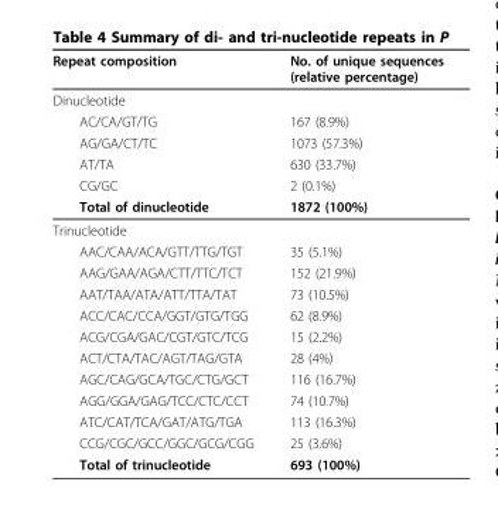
<table><thead><tr><td>Repeat composition</td><td>No. of unique sequences (relative percentage)</td></tr></thead><tbody><tr><td colspan="2">Dinucleotide</td></tr><tr><td>AC/CA/GT/TG</td><td>167 (8.9%)</td></tr><tr><td>AG/GA/CT/TC</td><td>1073 (57.3%)</td></tr><tr><td>AT/TA</td><td>630 (33.7%)</td></tr><tr><td>CG/GC</td><td>2 (0.1%)</td></tr><tr><td>Total of dinucleotide</td><td>1872 (100%)</td></tr><tr><td colspan="2">Trinucleotide</td></tr><tr><td>AAC/CAA/ACA/GTT/TTG/TGT</td><td>35 (5.1%)</td></tr><tr><td>AAG/GAA/AGA/CTT/TTC/TCT</td><td>152 (21.9%)</td></tr><tr><td>AAT/TAA/ATA/ATT/TTA/TAT</td><td>73 (10.5%)</td></tr><tr><td>ACC/CAC/CCA/GGT/GTG/TGG</td><td>62 (8.9%)</td></tr><tr><td>ACG/CGA/GAC/CGT/GTC/TCG</td><td>15 (2.2%)</td></tr><tr><td>ACT/CTA/TAC/AGT/TAG/GTA</td><td>28 (4%)</td></tr><tr><td>AGC/CAG/GCA/TGC/CTG/GCT</td><td>116 (16.7%)</td></tr><tr><td>AGG/GGA/GAG/TCC/CTC/CCT</td><td>74 (10.7%)</td></tr><tr><td>ATC/CAT/TCA/GAT/ATG/TGA</td><td>113 (16.3%)</td></tr><tr><td>CCG/CGC/GCC/GGC/GCG/CGG</td><td>25 (3.6%)</td></tr><tr><td>Total of trinucleotide</td><td>693 (100%)</td></tr></tbody></table>